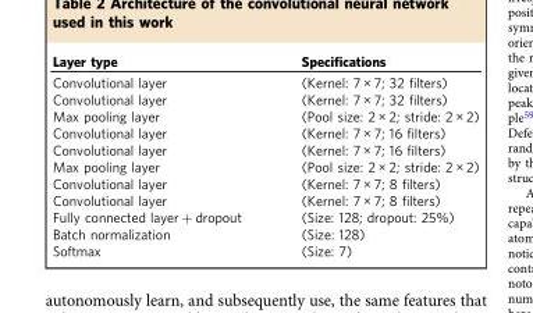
<table><thead><tr><td>Layer type</td><td>Specifications</td></tr></thead><tbody><tr><td>Convolutional layer</td><td>(Kernel: 7 × 7; 32 filters)</td></tr><tr><td>Convolutional layer</td><td>(Kernel: 7 × 7; 32 filters)</td></tr><tr><td>Max pooling layer</td><td>(Pool size: 2 × 2; stride: 2 × 2)</td></tr><tr><td>Convolutional layer</td><td>(Kernel: 7 × 7; 16 filters)</td></tr><tr><td>Convolutional layer</td><td>(Kernel: 7 × 7; 16 filters)</td></tr><tr><td>Max pooling layer</td><td>(Pool size: 2 × 2; stride: 2 × 2)</td></tr><tr><td>Convolutional layer</td><td>(Kernel: 7 × 7; 8 filters)</td></tr><tr><td>Convolutional layer</td><td>(Kernel: 7 × 7; 8 filters)</td></tr><tr><td>Fully connected layer + dropout</td><td>(Size: 128; dropout: 25%)</td></tr><tr><td>Batch normalization</td><td>(Size: 128)</td></tr><tr><td>Softmax</td><td>(Size: 7)</td></tr></tbody></table>